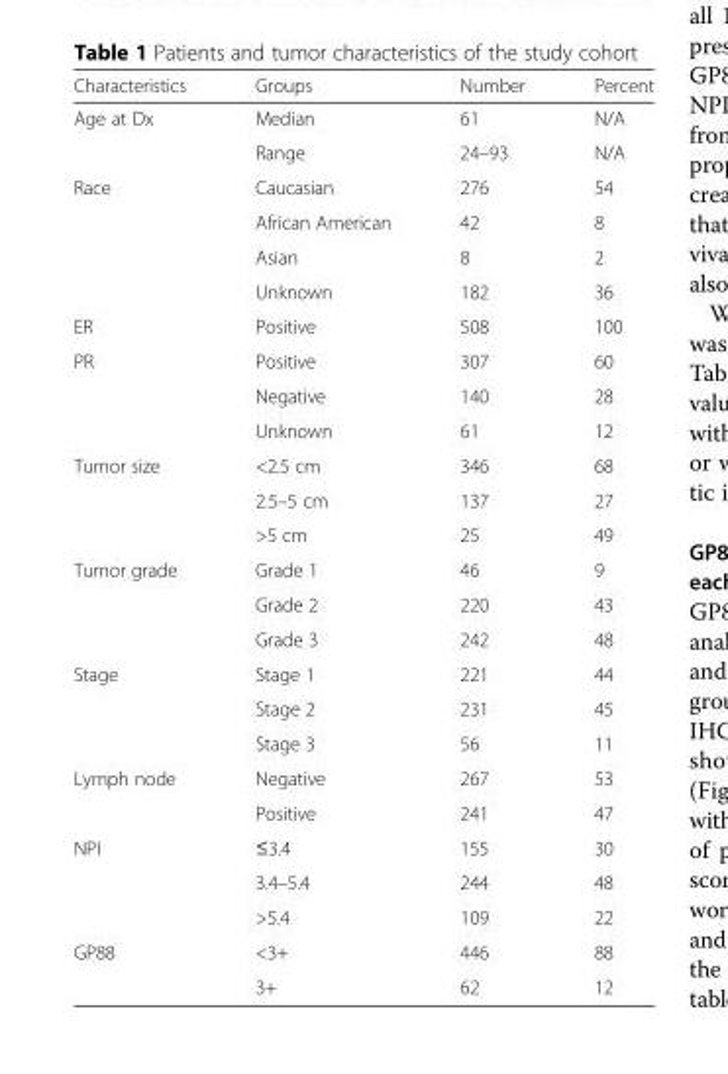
<table><thead><tr><td>Characteristics</td><td>Groups</td><td>Number</td><td>Percent</td></tr></thead><tbody><tr><td rowspan="2">Age at Dx</td><td>Median</td><td>61</td><td>N/A</td></tr><tr><td>Range</td><td>24–93</td><td>N/A</td></tr><tr><td rowspan="4">Race</td><td>Caucasian</td><td>276</td><td>54</td></tr><tr><td>African American</td><td>42</td><td>8</td></tr><tr><td>Asian</td><td>8</td><td>2</td></tr><tr><td>Unknown</td><td>182</td><td>36</td></tr><tr><td>ER</td><td>Positive</td><td>508</td><td>100</td></tr><tr><td rowspan="3">PR</td><td>Positive</td><td>307</td><td>60</td></tr><tr><td>Negative</td><td>140</td><td>28</td></tr><tr><td>Unknown</td><td>61</td><td>12</td></tr><tr><td rowspan="3">Tumor size</td><td>&lt;2.5 cm</td><td>346</td><td>68</td></tr><tr><td>2.5–5 cm</td><td>137</td><td>27</td></tr><tr><td>&gt;5 cm</td><td>25</td><td>49</td></tr><tr><td rowspan="3">Tumor grade</td><td>Grade 1</td><td>46</td><td>9</td></tr><tr><td>Grade 2</td><td>220</td><td>43</td></tr><tr><td>Grade 3</td><td>242</td><td>48</td></tr><tr><td rowspan="3">Stage</td><td>Stage 1</td><td>221</td><td>44</td></tr><tr><td>Stage 2</td><td>231</td><td>45</td></tr><tr><td>Stage 3</td><td>56</td><td>11</td></tr><tr><td rowspan="2">Lymph node</td><td>Negative</td><td>267</td><td>53</td></tr><tr><td>Positive</td><td>241</td><td>47</td></tr><tr><td rowspan="3">NPI</td><td>≤3.4</td><td>155</td><td>30</td></tr><tr><td>3.4–5.4</td><td>244</td><td>48</td></tr><tr><td>&gt;5.4</td><td>109</td><td>22</td></tr><tr><td rowspan="2">GP88</td><td>&lt;3+</td><td>446</td><td>88</td></tr><tr><td>3+</td><td>62</td><td>12</td></tr></tbody></table>